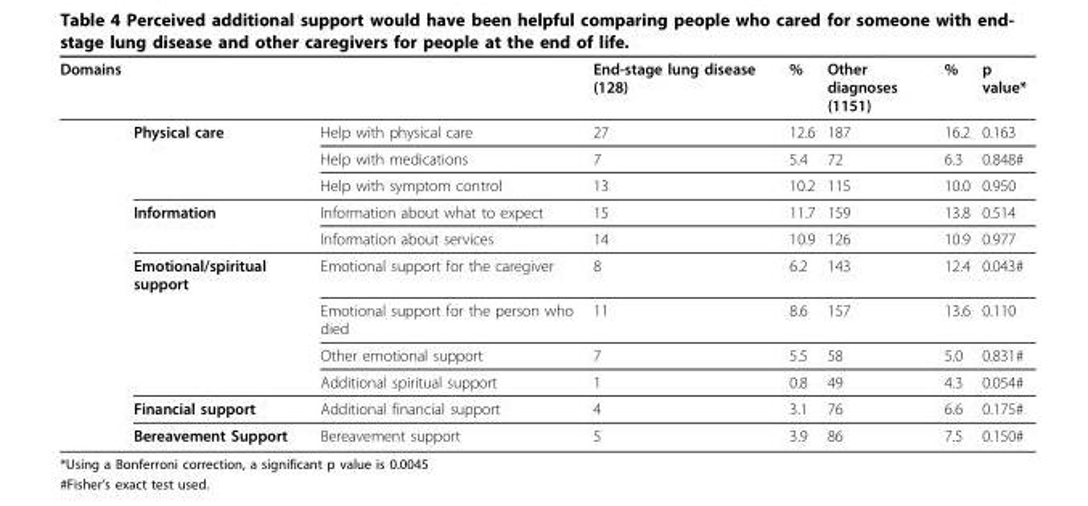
<table><thead><tr><td>Domains</td><td></td><td></td><td>End-stage lung disease (128)</td><td>%</td><td>Other diagnoses (1151)</td><td>%</td><td>p value*</td></tr></thead><tbody><tr><td></td><td>Physical care</td><td>Help with physical care</td><td>27</td><td>12.6</td><td>187</td><td>16.2</td><td>0.163</td></tr><tr><td></td><td></td><td>Help with medications</td><td>7</td><td>5.4</td><td>72</td><td>6.3</td><td>0.848#</td></tr><tr><td></td><td></td><td>Help with symptom control</td><td>13</td><td>10.2</td><td>115</td><td>10.0</td><td>0.950</td></tr><tr><td></td><td>Information</td><td>Information about what to expect</td><td>15</td><td>11.7</td><td>159</td><td>13.8</td><td>0.514</td></tr><tr><td></td><td></td><td>Information about services</td><td>14</td><td>10.9</td><td>126</td><td>10.9</td><td>0.977</td></tr><tr><td></td><td>Emotional/spiritual support</td><td>Emotional support for the caregiver</td><td>8</td><td>6.2</td><td>143</td><td>12.4</td><td>0.043#</td></tr><tr><td></td><td></td><td>Emotional support for the person who died</td><td>11</td><td>8.6</td><td>157</td><td>13.6</td><td>0.110</td></tr><tr><td></td><td></td><td>Other emotional support</td><td>7</td><td>5.5</td><td>58</td><td>5.0</td><td>0.831#</td></tr><tr><td></td><td></td><td>Additional spiritual support</td><td>1</td><td>0.8</td><td>49</td><td>4.3</td><td>0.054#</td></tr><tr><td></td><td>Financial support</td><td>Additional financial support</td><td>4</td><td>3.1</td><td>76</td><td>6.6</td><td>0.175#</td></tr><tr><td></td><td>Bereavement Support</td><td>Bereavement support</td><td>5</td><td>3.9</td><td>86</td><td>7.5</td><td>0.150#</td></tr></tbody></table>